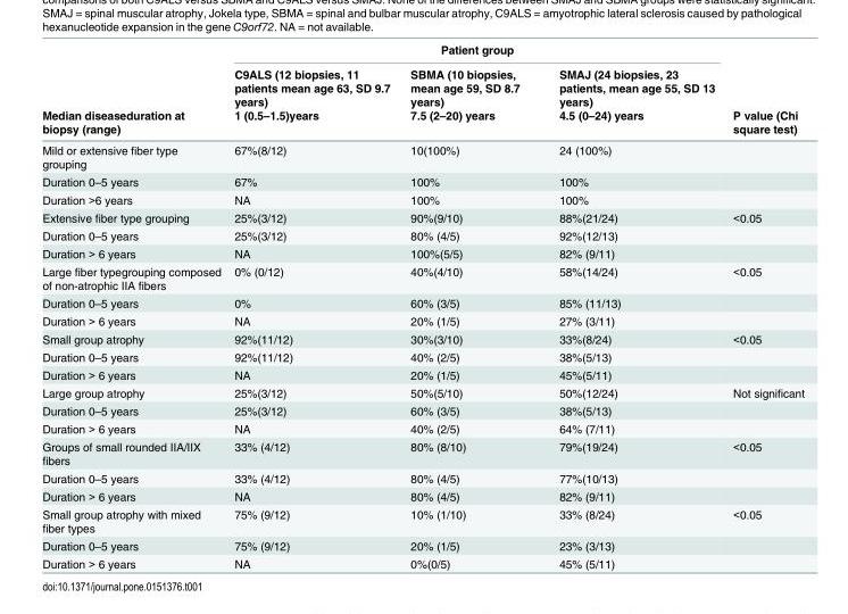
<table><thead><tr><td rowspan="3">Median diseaseduration at biopsy (range)</td><td colspan="3">Patient group</td><td rowspan="3">P value (Chi square test)</td></tr><tr><td rowspan="2">C9ALS (12 biopsies, 11 patients mean age 63, SD 9.7 years) 1 (0.5–1.5)years</td><td rowspan="2">SBMA (10 biopsies, mean age 59, SD 8.7 years) 7.5 (2–20) years</td><td rowspan="2">SMAJ (24 biopsies, 23 patients, mean age 55, SD 13 years) 4.5 (0–24) years</td></tr><tr></tr></thead><tbody><tr><td>Mild or extensive fiber type grouping</td><td>67%(8/12)</td><td>10(100%)</td><td>24 (100%)</td><td></td></tr><tr><td>Duration 0–5 years</td><td>67%</td><td>100%</td><td>100%</td><td></td></tr><tr><td>Duration &gt;6 years</td><td>NA</td><td>100%</td><td>100%</td><td></td></tr><tr><td>Extensive fiber type grouping</td><td>25%(3/12)</td><td>90%(9/10)</td><td>88%(21/24)</td><td>&lt;0.05</td></tr><tr><td>Duration 0–5 years</td><td>25%(3/12)</td><td>80% (4/5)</td><td>92%(12/13)</td><td></td></tr><tr><td>Duration &gt; 6 years</td><td>NA</td><td>100%(5/5)</td><td>82% (9/11)</td><td></td></tr><tr><td>Large fiber typegrouping composed of non-atrophic IIA fibers</td><td>0% (0/12)</td><td>40%(4/10)</td><td>58%(14/24)</td><td>&lt;0.05</td></tr><tr><td>Duration 0–5 years</td><td>0%</td><td>60% (3/5)</td><td>85% (11/13)</td><td></td></tr><tr><td>Duration &gt; 6 years</td><td>NA</td><td>20% (1/5)</td><td>27% (3/11)</td><td></td></tr><tr><td>Small group atrophy</td><td>92%(11/12)</td><td>30%(3/10)</td><td>33%(8/24)</td><td>&lt;0.05</td></tr><tr><td>Duration 0–5 years</td><td>92%(11/12)</td><td>40% (2/5)</td><td>38%(5/13)</td><td></td></tr><tr><td>Duration &gt; 6 years</td><td>NA</td><td>20% (1/5)</td><td>45%(5/11)</td><td></td></tr><tr><td>Large group atrophy</td><td>25%(3/12)</td><td>50%(5/10)</td><td>50%(12/24)</td><td>Not significant</td></tr><tr><td>Duration 0–5 years</td><td>25%(3/12)</td><td>60% (3/5)</td><td>38%(5/13)</td><td></td></tr><tr><td>Duration &gt; 6 years</td><td>NA</td><td>40% (2/5)</td><td>64% (7/11)</td><td></td></tr><tr><td>Groups of small rounded IIA/IIX fibers</td><td>33% (4/12)</td><td>80% (8/10)</td><td>79%(19/24)</td><td>&lt;0.05</td></tr><tr><td>Duration 0–5 years</td><td>33% (4/12)</td><td>80% (4/5)</td><td>77%(10/13)</td><td></td></tr><tr><td>Duration &gt; 6 years</td><td>NA</td><td>80% (4/5)</td><td>82% (9/11)</td><td></td></tr><tr><td>Small group atrophy with mixed fiber types</td><td>75% (9/12)</td><td>10% (1/10)</td><td>33% (8/24)</td><td>&lt;0.05</td></tr><tr><td>Duration 0–5 years</td><td>75% (9/12)</td><td>20% (1/5)</td><td>23% (3/13)</td><td></td></tr><tr><td>Duration &gt; 6 years</td><td>NA</td><td>0%(0/5)</td><td>45% (5/11)</td><td></td></tr></tbody></table>